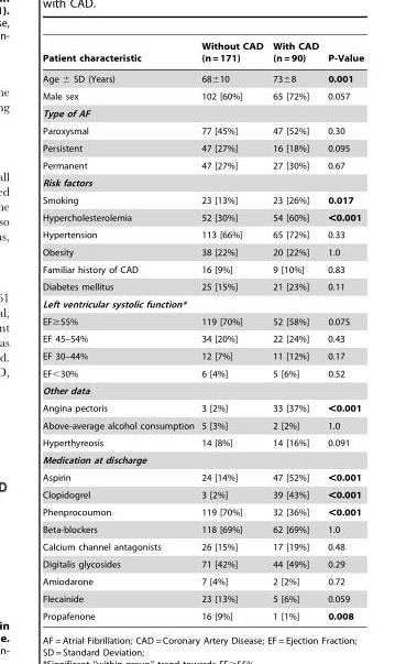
<table><thead><tr><td>Patient characteristic</td><td>Without CAD (n = 171)</td><td>With CAD (n = 90)</td><td>P-Value</td></tr></thead><tbody><tr><td>Age ± SD (Years)</td><td>68±10</td><td>73±8</td><td>0.001</td></tr><tr><td>Male sex</td><td>102 [60%]</td><td>65 [72%]</td><td>0.057</td></tr><tr><td colspan="4">Type of AF</td></tr><tr><td>Paroxysmal</td><td>77 [45%]</td><td>47 [52%]</td><td>0.30</td></tr><tr><td>Persistent</td><td>47 [27%]</td><td>16 [18%]</td><td>0.095</td></tr><tr><td>Permanent</td><td>47 [27%]</td><td>27 [30%]</td><td>0.67</td></tr><tr><td colspan="4">Risk factors</td></tr><tr><td>Smoking</td><td>23 [13%]</td><td>23 [26%]</td><td>0.017</td></tr><tr><td>Hypercholesterolemia</td><td>52 [30%]</td><td>54 [60%]</td><td>&lt;0.001</td></tr><tr><td>Hypertension</td><td>113 [66%]</td><td>65 [72%]</td><td>0.33</td></tr><tr><td>Obesity</td><td>38 [22%]</td><td>20 [22%]</td><td>1.0</td></tr><tr><td>Familiar history of CAD</td><td>16 [9%]</td><td>9 [10%]</td><td>0.83</td></tr><tr><td>Diabetes mellitus</td><td>25 [15%]</td><td>21 [23%]</td><td>0.11</td></tr><tr><td colspan="4">Left ventricular systolic function*</td></tr><tr><td>EF≥55%</td><td>119 [70%]</td><td>52 [58%]</td><td>0.075</td></tr><tr><td>EF 45–54%</td><td>34 [20%]</td><td>22 [24%]</td><td>0.43</td></tr><tr><td>EF 30–44%</td><td>12 [7%]</td><td>11 [12%]</td><td>0.17</td></tr><tr><td>EF&lt;30%</td><td>6 [4%]</td><td>5 [6%]</td><td>0.52</td></tr><tr><td colspan="4">Other data</td></tr><tr><td>Angina pectoris</td><td>3 [2%]</td><td>33 [37%]</td><td>&lt;0.001</td></tr><tr><td>Above-average alcohol consumption</td><td>5 [3%]</td><td>2 [2%]</td><td>1.0</td></tr><tr><td>Hyperthyreosis</td><td>14 [8%]</td><td>14 [16%]</td><td>0.091</td></tr><tr><td colspan="4">Medication at discharge</td></tr><tr><td>Aspirin</td><td>24 [14%]</td><td>47 [52%]</td><td>&lt;0.001</td></tr><tr><td>Clopidogrel</td><td>3 [2%]</td><td>39 [43%]</td><td>&lt;0.001</td></tr><tr><td>Phenprocoumon</td><td>119 [70%]</td><td>32 [36%]</td><td>&lt;0.001</td></tr><tr><td>Beta-blockers</td><td>118 [69%]</td><td>62 [69%]</td><td>1.0</td></tr><tr><td>Calcium channel antagonists</td><td>26 [15%]</td><td>17 [19%]</td><td>0.48</td></tr><tr><td>Digitalis glycosides</td><td>71 [42%]</td><td>44 [49%]</td><td>0.29</td></tr><tr><td>Amiodarone</td><td>7 [4%]</td><td>2 [2%]</td><td>0.72</td></tr><tr><td>Flecainide</td><td>23 [13%]</td><td>5 [6%]</td><td>0.059</td></tr><tr><td>Propafenone</td><td>16 [9%]</td><td>1 [1%]</td><td>0.008</td></tr></tbody></table>